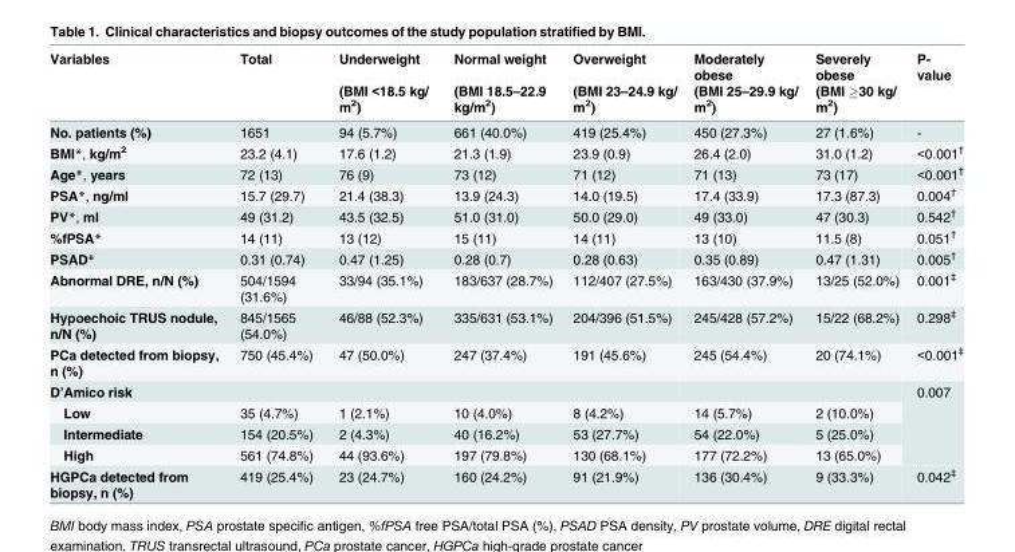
<table><thead><tr><td rowspan="2">Variables</td><td rowspan="2">Total</td><td rowspan="2">Underweight (BMI &lt;18.5 kg/ m<sup>2</sup>)</td><td rowspan="2">Normal weight (BMI 18.5–22.9 kg/m<sup>2</sup>)</td><td rowspan="2">Overweight (BMI 23–24.9 kg/ m<sup>2</sup>)</td><td rowspan="2">Moderately obese (BMI 25–29.9 kg/ m<sup>2</sup>)</td><td rowspan="2">Severely obese (BMI ≥30 kg/ m<sup>2</sup>)</td><td rowspan="2">P- value</td></tr><tr></tr></thead><tbody><tr><td>No. patients (%)</td><td>1651</td><td>94 (5.7%)</td><td>661 (40.0%)</td><td>419 (25.4%)</td><td>450 (27.3%)</td><td>27 (1.6%)</td><td>-</td></tr><tr><td>BMI*, kg/m<sup>2</sup></td><td>23.2 (4.1)</td><td>17.6 (1.2)</td><td>21.3 (1.9)</td><td>23.9 (0.9)</td><td>26.4 (2.0)</td><td>31.0 (1.2)</td><td>&lt;0.001<sup>†</sup></td></tr><tr><td>Age*, years</td><td>72 (13)</td><td>76 (9)</td><td>73 (12)</td><td>71 (12)</td><td>71 (13)</td><td>73 (17)</td><td>&lt;0.001<sup>†</sup></td></tr><tr><td>PSA*, ng/ml</td><td>15.7 (29.7)</td><td>21.4 (38.3)</td><td>13.9 (24.3)</td><td>14.0 (19.5)</td><td>17.4 (33.9)</td><td>17.3 (87.3)</td><td>0.004<sup>†</sup></td></tr><tr><td>PV*, ml</td><td>49 (31.2)</td><td>43.5 (32.5)</td><td>51.0 (31.0)</td><td>50.0 (29.0)</td><td>49 (33.0)</td><td>47 (30.3)</td><td>0.542<sup>†</sup></td></tr><tr><td>%fPSA*</td><td>14 (11)</td><td>13 (12)</td><td>15 (11)</td><td>14 (11)</td><td>13 (10)</td><td>11.5 (8)</td><td>0.051<sup>†</sup></td></tr><tr><td>PSAD*</td><td>0.31 (0.74)</td><td>0.47 (1.25)</td><td>0.28 (0.7)</td><td>0.28 (0.63)</td><td>0.35 (0.89)</td><td>0.47 (1.31)</td><td>0.005<sup>†</sup></td></tr><tr><td>Abnormal DRE, n/N (%)</td><td>504/1594 (31.6%)</td><td>33/94 (35.1%)</td><td>183/637 (28.7%)</td><td>112/407 (27.5%)</td><td>163/430 (37.9%)</td><td>13/25 (52.0%)</td><td>0.001<sup>‡</sup></td></tr><tr><td>Hypoechoic TRUS nodule, n/N (%)</td><td>845/1565 (54.0%)</td><td>46/88 (52.3%)</td><td>335/631 (53.1%)</td><td>204/396 (51.5%)</td><td>245/428 (57.2%)</td><td>15/22 (68.2%)</td><td>0.298<sup>‡</sup></td></tr><tr><td>PCa detected from biopsy, n (%)</td><td>750 (45.4%)</td><td>47 (50.0%)</td><td>247 (37.4%)</td><td>191 (45.6%)</td><td>245 (54.4%)</td><td>20 (74.1%)</td><td>&lt;0.001<sup>‡</sup></td></tr><tr><td colspan="7">D’Amico risk</td><td rowspan="4">0.007</td></tr><tr><td>Low</td><td>35 (4.7%)</td><td>1 (2.1%)</td><td>10 (4.0%)</td><td>8 (4.2%)</td><td>14 (5.7%)</td><td>2 (10.0%)</td></tr><tr><td>Intermediate</td><td>154 (20.5%)</td><td>2 (4.3%)</td><td>40 (16.2%)</td><td>53 (27.7%)</td><td>54 (22.0%)</td><td>5 (25.0%)</td></tr><tr><td>High</td><td>561 (74.8%)</td><td>44 (93.6%)</td><td>197 (79.8%)</td><td>130 (68.1%)</td><td>177 (72.2%)</td><td>13 (65.0%)</td></tr><tr><td>HGPCa detected from biopsy, n (%)</td><td>419 (25.4%)</td><td>23 (24.7%)</td><td>160 (24.2%)</td><td>91 (21.9%)</td><td>136 (30.4%)</td><td>9 (33.3%)</td><td>0.042<sup>‡</sup></td></tr></tbody></table>